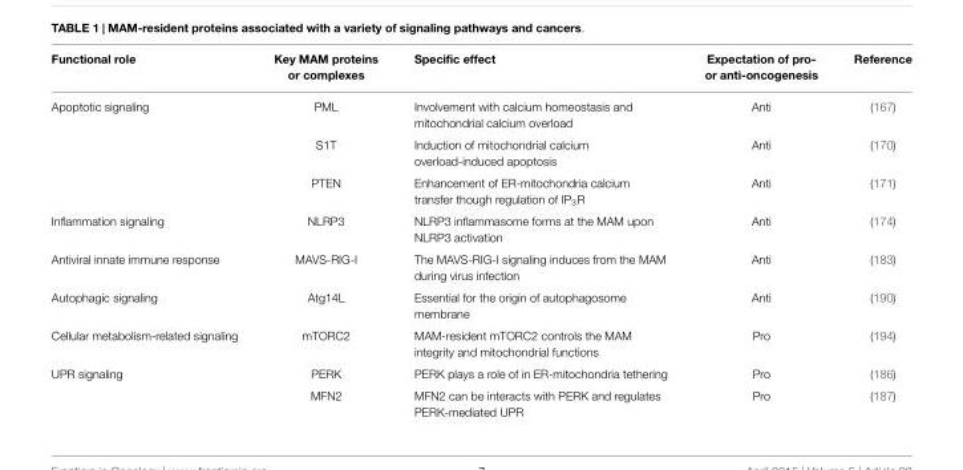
<table><thead><tr><td>Functional role</td><td>Key MAM proteins or complexes</td><td>Specific effect</td><td>Expectation of pro- or anti-oncogenesis</td><td>Reference</td></tr></thead><tbody><tr><td rowspan="3">Apoptotic signaling</td><td>PML</td><td>Involvement with calcium homeostasis and mitochondrial calcium overload</td><td>Anti</td><td>(167)</td></tr><tr><td>S1T</td><td>Induction of mitochondrial calcium overload-induced apoptosis</td><td>Anti</td><td>(170)</td></tr><tr><td>PTEN</td><td>Enhancement of ER-mitochondria calcium transfer though regulation of IP<sub>3</sub>R</td><td>Anti</td><td>(171)</td></tr><tr><td>Inflammation signaling</td><td>NLRP3</td><td>NLRP3 inflammasome forms at the MAM upon NLRP3 activation</td><td>Anti</td><td>(174)</td></tr><tr><td>Antiviral innate immune response</td><td>MAVS-RIG-I</td><td>The MAVS-RIG-I signaling induces from the MAM during virus infection</td><td>Anti</td><td>(183)</td></tr><tr><td>Autophagic signaling</td><td>Atg14L</td><td>Essential for the origin of autophagosome membrane</td><td>Anti</td><td>(190)</td></tr><tr><td>Cellular metabolism-related signaling</td><td>mTORC2</td><td>MAM-resident mTORC2 controls the MAM integrity and mitochondrial functions</td><td>Pro</td><td>(194)</td></tr><tr><td rowspan="2">UPR signaling</td><td>PERK</td><td>PERK plays a role of in ER-mitochondria tethering</td><td>Pro</td><td>(186)</td></tr><tr><td>MFN2</td><td>MFN2 can be interacts with PERK and regulates PERK-mediated UPR</td><td>Pro</td><td>(187)</td></tr></tbody></table>